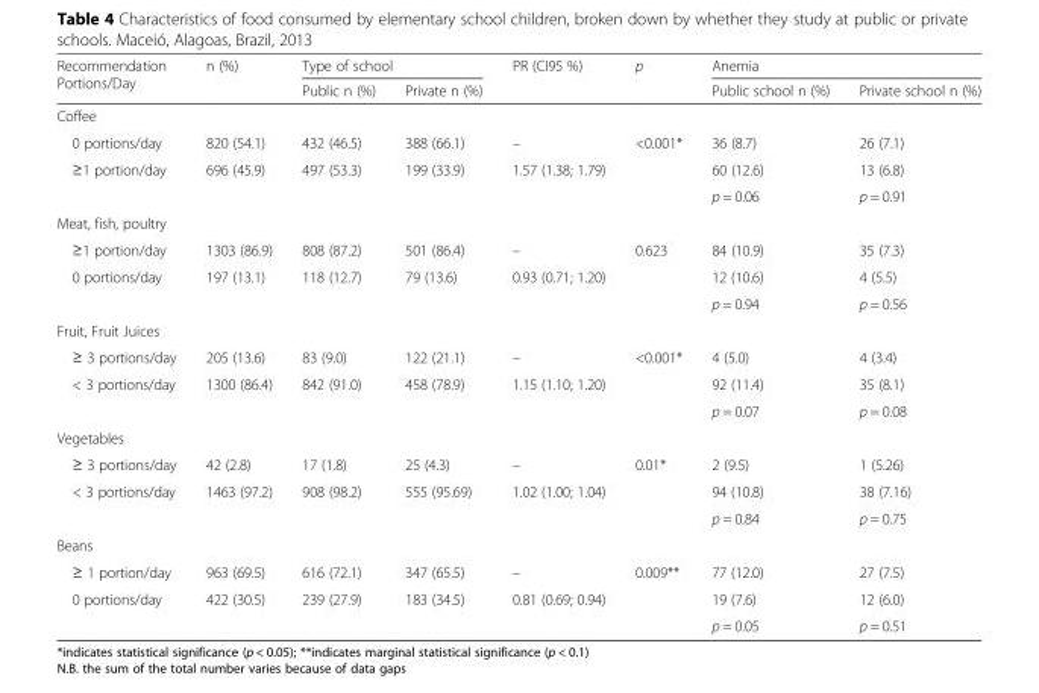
<table><thead><tr><td rowspan="2">Recommendation Portions/Day</td><td rowspan="2">n (%)</td><td colspan="2">Type of school</td><td rowspan="2">PR (CI95 %)</td><td rowspan="2">p</td><td colspan="2">Anemia</td></tr><tr><td>Public n (%)</td><td>Private n (%)</td><td>Public school n (%)</td><td>Private school n (%)</td></tr></thead><tbody><tr><td colspan="8">Coffee</td></tr><tr><td>0 portions/day</td><td>820 (54.1)</td><td>432 (46.5)</td><td>388 (66.1)</td><td>–</td><td rowspan="2">&lt;0.001*</td><td>36 (8.7)</td><td>26 (7.1)</td></tr><tr><td rowspan="2">≥1 portion/day</td><td>696 (45.9)</td><td>497 (53.3)</td><td>199 (33.9)</td><td>1.57 (1.38; 1.79)</td><td>60 (12.6)</td><td>13 (6.8)</td></tr><tr><td></td><td></td><td></td><td></td><td></td><td>p = 0.06</td><td>p = 0.91</td></tr><tr><td colspan="8">Meat, fish, poultry</td></tr><tr><td>≥1 portion/day</td><td>1303 (86.9)</td><td>808 (87.2)</td><td>501 (86.4)</td><td>–</td><td rowspan="2">0.623</td><td>84 (10.9)</td><td>35 (7.3)</td></tr><tr><td rowspan="2">0 portions/day</td><td>197 (13.1)</td><td>118 (12.7)</td><td>79 (13.6)</td><td>0.93 (0.71; 1.20)</td><td>12 (10.6)</td><td>4 (5.5)</td></tr><tr><td></td><td></td><td></td><td></td><td></td><td>p = 0.94</td><td>p = 0.56</td></tr><tr><td colspan="8">Fruit, Fruit Juices</td></tr><tr><td>≥ 3 portions/day</td><td>205 (13.6)</td><td>83 (9.0)</td><td>122 (21.1)</td><td>–</td><td rowspan="2">&lt;0.001*</td><td>4 (5.0)</td><td>4 (3.4)</td></tr><tr><td rowspan="2">&lt; 3 portions/day</td><td>1300 (86.4)</td><td>842 (91.0)</td><td>458 (78.9)</td><td>1.15 (1.10; 1.20)</td><td>92 (11.4)</td><td>35 (8.1)</td></tr><tr><td></td><td></td><td></td><td></td><td></td><td>p = 0.07</td><td>p = 0.08</td></tr><tr><td colspan="8">Vegetables</td></tr><tr><td>≥ 3 portions/day</td><td>42 (2.8)</td><td>17 (1.8)</td><td>25 (4.3)</td><td>–</td><td rowspan="2">0.01*</td><td>2 (9.5)</td><td>1 (5.26)</td></tr><tr><td rowspan="2">&lt; 3 portions/day</td><td>1463 (97.2)</td><td>908 (98.2)</td><td>555 (95.69)</td><td>1.02 (1.00; 1.04)</td><td>94 (10.8)</td><td>38 (7.16)</td></tr><tr><td></td><td></td><td></td><td></td><td></td><td>p = 0.84</td><td>p = 0.75</td></tr><tr><td colspan="8">Beans</td></tr><tr><td>≥ 1 portion/day</td><td>963 (69.5)</td><td>616 (72.1)</td><td>347 (65.5)</td><td>–</td><td rowspan="2">0.009**</td><td>77 (12.0)</td><td>27 (7.5)</td></tr><tr><td rowspan="2">0 portions/day</td><td>422 (30.5)</td><td>239 (27.9)</td><td>183 (34.5)</td><td>0.81 (0.69; 0.94)</td><td>19 (7.6)</td><td>12 (6.0)</td></tr><tr><td></td><td></td><td></td><td></td><td></td><td>p = 0.05</td><td>p = 0.51</td></tr></tbody></table>